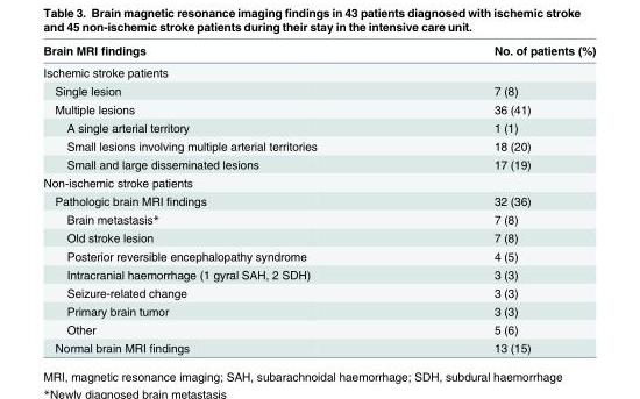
<table><thead><tr><td>Brain MRI findings</td><td>No. of patients (%)</td></tr></thead><tbody><tr><td colspan="2">Ischemic stroke patients</td></tr><tr><td>Single lesion</td><td>7 (8)</td></tr><tr><td>Multiple lesions</td><td>36 (41)</td></tr><tr><td>A single arterial territory</td><td>1 (1)</td></tr><tr><td>Small lesions involving multiple arterial territories</td><td>18 (20)</td></tr><tr><td>Small and large disseminated lesions</td><td>17 (19)</td></tr><tr><td colspan="2">Non-ischemic stroke patients</td></tr><tr><td>Pathologic brain MRI findings</td><td>32 (36)</td></tr><tr><td>Brain metastasis*</td><td>7 (8)</td></tr><tr><td>Old stroke lesion</td><td>7 (8)</td></tr><tr><td>Posterior reversible encephalopathy syndrome</td><td>4 (5)</td></tr><tr><td>Intracranial haemorrhage (1 gyral SAH, 2 SDH)</td><td>3 (3)</td></tr><tr><td>Seizure-related change</td><td>3 (3)</td></tr><tr><td>Primary brain tumor</td><td>3 (3)</td></tr><tr><td>Other</td><td>5 (6)</td></tr><tr><td>Normal brain MRI findings</td><td>13 (15)</td></tr></tbody></table>